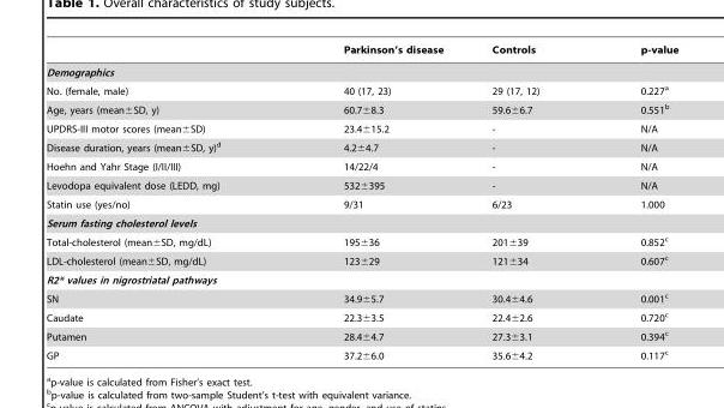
<table><thead><tr><td></td><td>Parkinson’s disease</td><td>Controls</td><td>p-value</td></tr></thead><tbody><tr><td colspan="4">Demographics</td></tr><tr><td>No. (female, male)</td><td>40 (17, 23)</td><td>29 (17, 12)</td><td>0.227<sup>a</sup></td></tr><tr><td>Age, years (mean±SD, y)</td><td>60.7±8.3</td><td>59.6±6.7</td><td>0.551<sup>b</sup></td></tr><tr><td>UPDRS-III motor scores (mean±SD)</td><td>23.4±15.2</td><td>-</td><td>N/A</td></tr><tr><td>Disease duration, years (mean±SD, y)<sup>d</sup></td><td>4.2±4.7</td><td>-</td><td>N/A</td></tr><tr><td>Hoehn and Yahr Stage (I/II/III)</td><td>14/22/4</td><td>-</td><td>N/A</td></tr><tr><td>Levodopa equivalent dose (LEDD, mg)</td><td>532±395</td><td>-</td><td>N/A</td></tr><tr><td>Statin use (yes/no)</td><td>9/31</td><td>6/23</td><td>1.000</td></tr><tr><td colspan="4">Serum fasting cholesterol levels</td></tr><tr><td>Total-cholesterol (mean±SD, mg/dL)</td><td>195±36</td><td>201±39</td><td>0.852<sup>c</sup></td></tr><tr><td>LDL-cholesterol (mean±SD, mg/dL)</td><td>123±29</td><td>121±34</td><td>0.607<sup>c</sup></td></tr><tr><td colspan="4">R2* values in nigrostriatal pathways</td></tr><tr><td>SN</td><td>34.9±5.7</td><td>30.4±4.6</td><td>0.001<sup>c</sup></td></tr><tr><td>Caudate</td><td>22.3±3.5</td><td>22.4±2.6</td><td>0.720<sup>c</sup></td></tr><tr><td>Putamen</td><td>28.4±4.7</td><td>27.3±3.1</td><td>0.394<sup>c</sup></td></tr><tr><td>GP</td><td>37.2±6.0</td><td>35.6±4.2</td><td>0.117<sup>c</sup></td></tr></tbody></table>